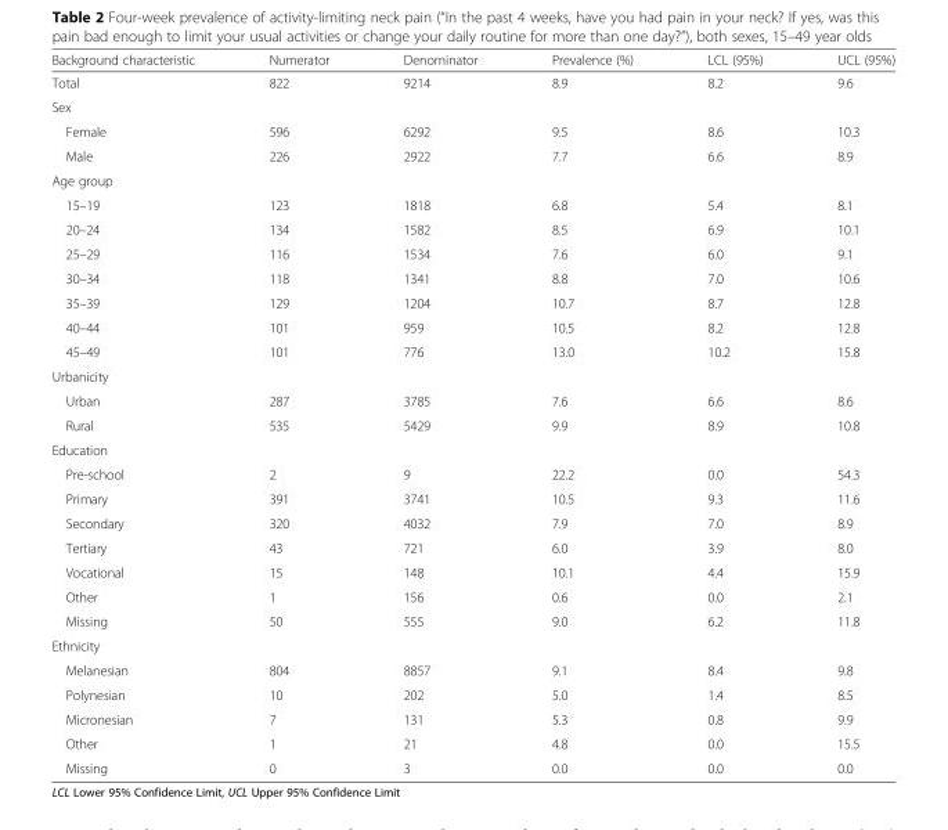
<table><thead><tr><td>Background characteristic</td><td>Numerator</td><td>Denominator</td><td>Prevalence (%)</td><td>LCL (95%)</td><td>UCL (95%)</td></tr></thead><tbody><tr><td>Total</td><td>822</td><td>9214</td><td>8.9</td><td>8.2</td><td>9.6</td></tr><tr><td colspan="6">Sex</td></tr><tr><td>Female</td><td>596</td><td>6292</td><td>9.5</td><td>8.6</td><td>10.3</td></tr><tr><td>Male</td><td>226</td><td>2922</td><td>7.7</td><td>6.6</td><td>8.9</td></tr><tr><td colspan="6">Age group</td></tr><tr><td>15–19</td><td>123</td><td>1818</td><td>6.8</td><td>5.4</td><td>8.1</td></tr><tr><td>20–24</td><td>134</td><td>1582</td><td>8.5</td><td>6.9</td><td>10.1</td></tr><tr><td>25–29</td><td>116</td><td>1534</td><td>7.6</td><td>6.0</td><td>9.1</td></tr><tr><td>30–34</td><td>118</td><td>1341</td><td>8.8</td><td>7.0</td><td>10.6</td></tr><tr><td>35–39</td><td>129</td><td>1204</td><td>10.7</td><td>8.7</td><td>12.8</td></tr><tr><td>40–44</td><td>101</td><td>959</td><td>10.5</td><td>8.2</td><td>12.8</td></tr><tr><td>45–49</td><td>101</td><td>776</td><td>13.0</td><td>10.2</td><td>15.8</td></tr><tr><td colspan="6">Urbanicity</td></tr><tr><td>Urban</td><td>287</td><td>3785</td><td>7.6</td><td>6.6</td><td>8.6</td></tr><tr><td>Rural</td><td>535</td><td>5429</td><td>9.9</td><td>8.9</td><td>10.8</td></tr><tr><td colspan="6">Education</td></tr><tr><td>Pre-school</td><td>2</td><td>9</td><td>22.2</td><td>0.0</td><td>54.3</td></tr><tr><td>Primary</td><td>391</td><td>3741</td><td>10.5</td><td>9.3</td><td>11.6</td></tr><tr><td>Secondary</td><td>320</td><td>4032</td><td>7.9</td><td>7.0</td><td>8.9</td></tr><tr><td>Tertiary</td><td>43</td><td>721</td><td>6.0</td><td>3.9</td><td>8.0</td></tr><tr><td>Vocational</td><td>15</td><td>148</td><td>10.1</td><td>4.4</td><td>15.9</td></tr><tr><td>Other</td><td>1</td><td>156</td><td>0.6</td><td>0.0</td><td>2.1</td></tr><tr><td>Missing</td><td>50</td><td>555</td><td>9.0</td><td>6.2</td><td>11.8</td></tr><tr><td colspan="6">Ethnicity</td></tr><tr><td>Melanesian</td><td>804</td><td>8857</td><td>9.1</td><td>8.4</td><td>9.8</td></tr><tr><td>Polynesian</td><td>10</td><td>202</td><td>5.0</td><td>1.4</td><td>8.5</td></tr><tr><td>Micronesian</td><td>7</td><td>131</td><td>5.3</td><td>0.8</td><td>9.9</td></tr><tr><td>Other</td><td>1</td><td>21</td><td>4.8</td><td>0.0</td><td>15.5</td></tr><tr><td>Missing</td><td>0</td><td>3</td><td>0.0</td><td>0.0</td><td>0.0</td></tr></tbody></table>